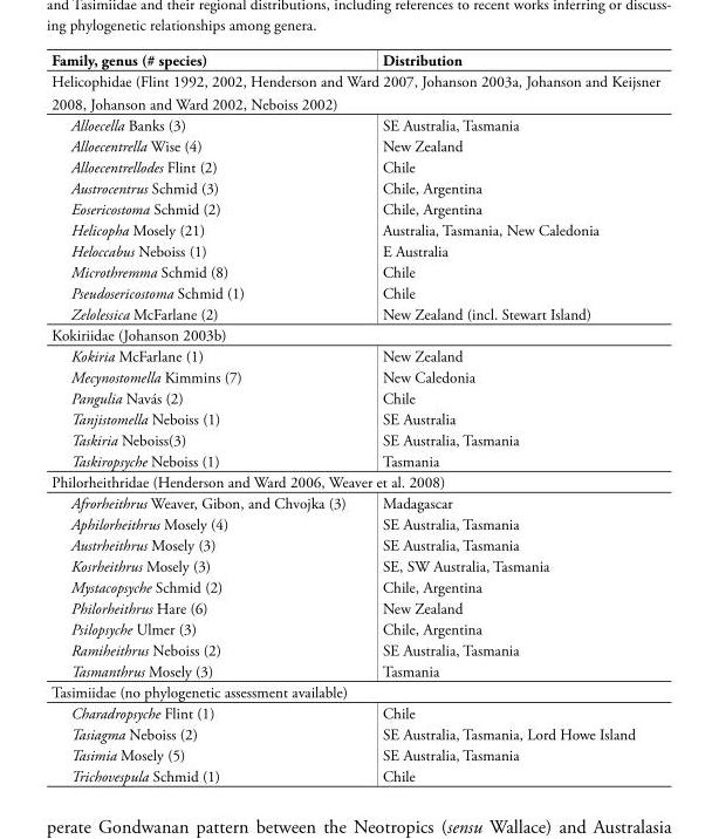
<table><thead><tr><td>Family, genus (# species)</td><td>Distribution</td></tr></thead><tbody><tr><td colspan="2">Helicophidae (Flint 1992, 2002, Henderson and Ward 2007, Johanson 2003a, Johanson and Keijsner 2008, Johanson and Ward 2002, Neboiss 2002)</td></tr><tr><td>Alloecella Banks (3)</td><td>SE Australia, Tasmania</td></tr><tr><td>Alloecentrella Wise (4)</td><td>New Zealand</td></tr><tr><td>Alloecentrellodes Flint (2)</td><td>Chile</td></tr><tr><td>Austrocentrus Schmid (3)</td><td>Chile, Argentina</td></tr><tr><td>Eosericostoma Schmid (2)</td><td>Chile, Argentina</td></tr><tr><td>Helicopha Mosely (21)</td><td>Australia, Tasmania, New Caledonia</td></tr><tr><td>Heloccabus Neboiss (1)</td><td>E Australia</td></tr><tr><td>Microthremma Schmid (8)</td><td>Chile</td></tr><tr><td>Pseudosericostoma Schmid (1)</td><td>Chile</td></tr><tr><td>Zelolessica McFarlane (2)</td><td>New Zealand (incl. Stewart Island)</td></tr><tr><td colspan="2">Kokiriidae (Johanson 2003b)</td></tr><tr><td>Kokiria McFarlane (1)</td><td>New Zealand</td></tr><tr><td>Mecynostomella Kimmins (7)</td><td>New Caledonia</td></tr><tr><td>Pangulia Navás (2)</td><td>Chile</td></tr><tr><td>Tanjistomella Neboiss (1)</td><td>SE Australia</td></tr><tr><td>Taskiria Neboiss(3)</td><td>SE Australia, Tasmania</td></tr><tr><td>Taskiropsyche Neboiss (1)</td><td>Tasmania</td></tr><tr><td colspan="2">Philorheithridae (Henderson and Ward 2006, Weaver et al. 2008)</td></tr><tr><td>Afrorheithrus Weaver, Gibon, and Chvojka (3)</td><td>Madagascar</td></tr><tr><td>Aphilorheithrus Mosely (4)</td><td>SE Australia, Tasmania</td></tr><tr><td>Austrheithrus Mosely (3)</td><td>SE Australia, Tasmania</td></tr><tr><td>Kosrheithrus Mosely (3)</td><td>SE, SW Australia, Tasmania</td></tr><tr><td>Mystacopsyche Schmid (2)</td><td>Chile, Argentina</td></tr><tr><td>Philorheithrus Hare (6)</td><td>New Zealand</td></tr><tr><td>Psilopsyche Ulmer (3)</td><td>Chile, Argentina</td></tr><tr><td>Ramiheithrus Neboiss (2)</td><td>SE Australia, Tasmania</td></tr><tr><td>Tasmanthrus Mosely (3)</td><td>Tasmania</td></tr><tr><td colspan="2">Tasimiidae (no phylogenetic assessment available)</td></tr><tr><td>Charadropsyche Flint (1)</td><td>Chile</td></tr><tr><td>Tasiagma Neboiss (2)</td><td>SE Australia, Tasmania, Lord Howe Island</td></tr><tr><td>Tasimia Mosely (5)</td><td>SE Australia, Tasmania</td></tr><tr><td>Trichovespula Schmid (1)</td><td>Chile</td></tr></tbody></table>